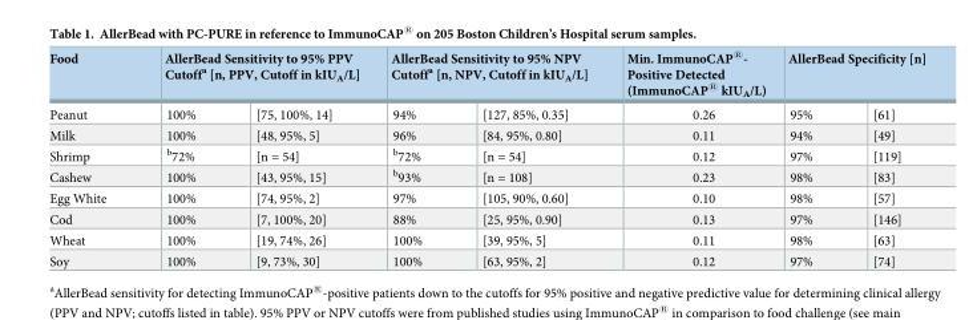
<table><thead><tr><td rowspan="2">Food Peanut</td><td colspan="2">AllerBead Sensitivity to 95% PPV Cutoff<sup>a</sup> [n, PPV, Cutoff in kIU<sub>A</sub>/L]</td><td colspan="2">AllerBead Sensitivity to 95% NPV Cutoff<sup>a</sup> [n, NPV, Cutoff in kIU<sub>A</sub>/L]</td><td rowspan="2">Min. ImmunoCAP<sup>®</sup>- Positive Detected (ImmunoCAP<sup>®</sup> kIU<sub>A</sub>/L) 0.26</td><td colspan="2">AllerBead Specificity [n]</td></tr><tr><td>100%</td><td>[75, 100%, 14]</td><td>94%</td><td>[127, 85%, 0.35]</td><td>95%</td><td>[61]</td></tr></thead><tbody><tr><td>Milk</td><td>100%</td><td>[48, 95%, 5]</td><td>96%</td><td>[84, 95%, 0.80]</td><td>0.11</td><td>94%</td><td>[49]</td></tr><tr><td>Shrimp</td><td><sup>b</sup>72%</td><td>[n = 54]</td><td><sup>b</sup>72%</td><td>[n = 54]</td><td>0.12</td><td>97%</td><td>[119]</td></tr><tr><td>Cashew</td><td>100%</td><td>[43, 95%, 15]</td><td><sup>b</sup>93%</td><td>[n = 108]</td><td>0.23</td><td>98%</td><td>[83]</td></tr><tr><td>Egg White</td><td>100%</td><td>[74, 95%, 2]</td><td>97%</td><td>[105, 90%, 0.60]</td><td>0.10</td><td>98%</td><td>[57]</td></tr><tr><td>Cod</td><td>100%</td><td>[7, 100%, 20]</td><td>88%</td><td>[25, 95%, 0.90]</td><td>0.13</td><td>97%</td><td>[146]</td></tr><tr><td>Wheat</td><td>100%</td><td>[19, 74%, 26]</td><td>100%</td><td>[39, 95%, 5]</td><td>0.11</td><td>98%</td><td>[63]</td></tr><tr><td>Soy</td><td>100%</td><td>[9, 73%, 30]</td><td>100%</td><td>[63, 95%, 2]</td><td>0.12</td><td>97%</td><td>[74]</td></tr></tbody></table>